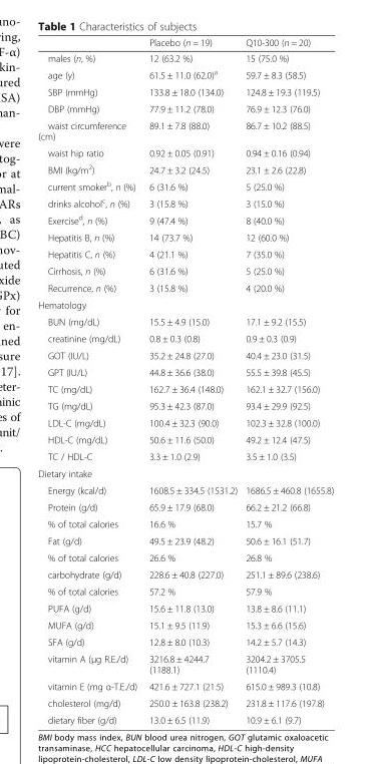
<table><thead><tr><td></td><td>Placebo (n = 19)</td><td>Q10-300 (n = 20)</td></tr></thead><tbody><tr><td>males (n, %)</td><td>12 (63.2 %)</td><td>15 (75.0 %)</td></tr><tr><td>age (y)</td><td>61.5 ± 11.0 (62.0)<sup>a</sup></td><td>59.7 ± 8.3 (58.5)</td></tr><tr><td>SBP (mmHg)</td><td>133.8 ± 18.0 (134.0)</td><td>124.8 ± 19.3 (119.5)</td></tr><tr><td>DBP (mmHg)</td><td>77.9 ± 11.2 (78.0)</td><td>76.9 ± 12.3 (76.0)</td></tr><tr><td>waist circumference (cm)</td><td>89.1 ± 7.8 (88.0)</td><td>86.7 ± 10.2 (88.5)</td></tr><tr><td>waist hip ratio</td><td>0.92 ± 0.05 (0.91)</td><td>0.94 ± 0.16 (0.94)</td></tr><tr><td>BMI (kg/m<sup>2</sup>)</td><td>24.7 ± 3.2 (24.5)</td><td>23.1 ± 2.6 (22.8)</td></tr><tr><td>current smoker<sup>b</sup>, n (%)</td><td>6 (31.6 %)</td><td>5 (25.0 %)</td></tr><tr><td>drinks alcohol<sup>c</sup>, n (%)</td><td>3 (15.8 %)</td><td>3 (15.0 %)</td></tr><tr><td>Exercise<sup>d</sup>, n (%)</td><td>9 (47.4 %)</td><td>8 (40.0 %)</td></tr><tr><td>Hepatitis B, n (%)</td><td>14 (73.7 %)</td><td>12 (60.0 %)</td></tr><tr><td>Hepatitis C, n (%)</td><td>4 (21.1 %)</td><td>7 (35.0 %)</td></tr><tr><td>Cirrhosis, n (%)</td><td>6 (31.6 %)</td><td>5 (25.0 %)</td></tr><tr><td>Recurrence, n (%)</td><td>3 (15.8 %)</td><td>4 (20.0 %)</td></tr><tr><td colspan="3">Hematology</td></tr><tr><td>BUN (mg/dL)</td><td>15.5 ± 4.9 (15.0)</td><td>17.1 ± 9.2 (15.5)</td></tr><tr><td>creatinine (mg/dL)</td><td>0.8 ± 0.3 (0.8)</td><td>0.9 ± 0.3 (0.9)</td></tr><tr><td>GOT (IU/L)</td><td>35.2 ± 24.8 (27.0)</td><td>40.4 ± 23.0 (31.5)</td></tr><tr><td>GPT (IU/L)</td><td>44.8 ± 36.6 (38.0)</td><td>55.5 ± 39.8 (45.5)</td></tr><tr><td>TC (mg/dL)</td><td>162.7 ± 36.4 (148.0)</td><td>162.1 ± 32.7 (156.0)</td></tr><tr><td>TG (mg/dL)</td><td>95.3 ± 42.3 (87.0)</td><td>93.4 ± 29.9 (92.5)</td></tr><tr><td>LDL-C (mg/dL)</td><td>100.4 ± 32.3 (90.0)</td><td>102.3 ± 32.8 (100.0)</td></tr><tr><td>HDL-C (mg/dL)</td><td>50.6 ± 11.6 (50.0)</td><td>49.2 ± 12.4 (47.5)</td></tr><tr><td>TC / HDL-C</td><td>3.3 ± 1.0 (2.9)</td><td>3.5 ± 1.0 (3.5)</td></tr><tr><td colspan="3">Dietary intake</td></tr><tr><td>Energy (kcal/d)</td><td>1608.5 ± 334.5 (1531.2)</td><td>1686.5 ± 460.8 (1655.8)</td></tr><tr><td>Protein (g/d)</td><td>65.9 ± 17.9 (68.0)</td><td>66.2 ± 21.2 (66.8)</td></tr><tr><td>% of total calories</td><td>16.6 %</td><td>15.7 %</td></tr><tr><td>Fat (g/d)</td><td>49.5 ± 23.9 (48.2)</td><td>50.6 ± 16.1 (51.7)</td></tr><tr><td>% of total calories</td><td>26.6 %</td><td>26.8 %</td></tr><tr><td>carbohydrate (g/d)</td><td>228.6 ± 40.8 (227.0)</td><td>251.1 ± 89.6 (238.6)</td></tr><tr><td>% of total calories</td><td>57.2 %</td><td>57.9 %</td></tr><tr><td>PUFA (g/d)</td><td>15.6 ± 11.8 (13.0)</td><td>13.8 ± 8.6 (11.1)</td></tr><tr><td>MUFA (g/d)</td><td>15.1 ± 9.5 (11.9)</td><td>15.3 ± 6.6 (15.6)</td></tr><tr><td>SFA (g/d)</td><td>12.8 ± 8.0 (10.3)</td><td>14.2 ± 5.7 (14.3)</td></tr><tr><td>vitamin A (μg R.E./d)</td><td>3216.8 ± 4244.7 (1188.1)</td><td>3204.2 ± 3705.5 (1110.4)</td></tr><tr><td>vitamin E (mg α-T.E./d)</td><td>421.6 ± 727.1 (21.5)</td><td>615.0 ± 989.3 (10.8)</td></tr><tr><td>cholesterol (mg/d)</td><td>250.0 ± 163.8 (238.2)</td><td>231.8 ± 117.6 (197.8)</td></tr><tr><td>dietary fiber (g/d)</td><td>13.0 ± 6.5 (11.9)</td><td>10.9 ± 6.1 (9.7)</td></tr></tbody></table>